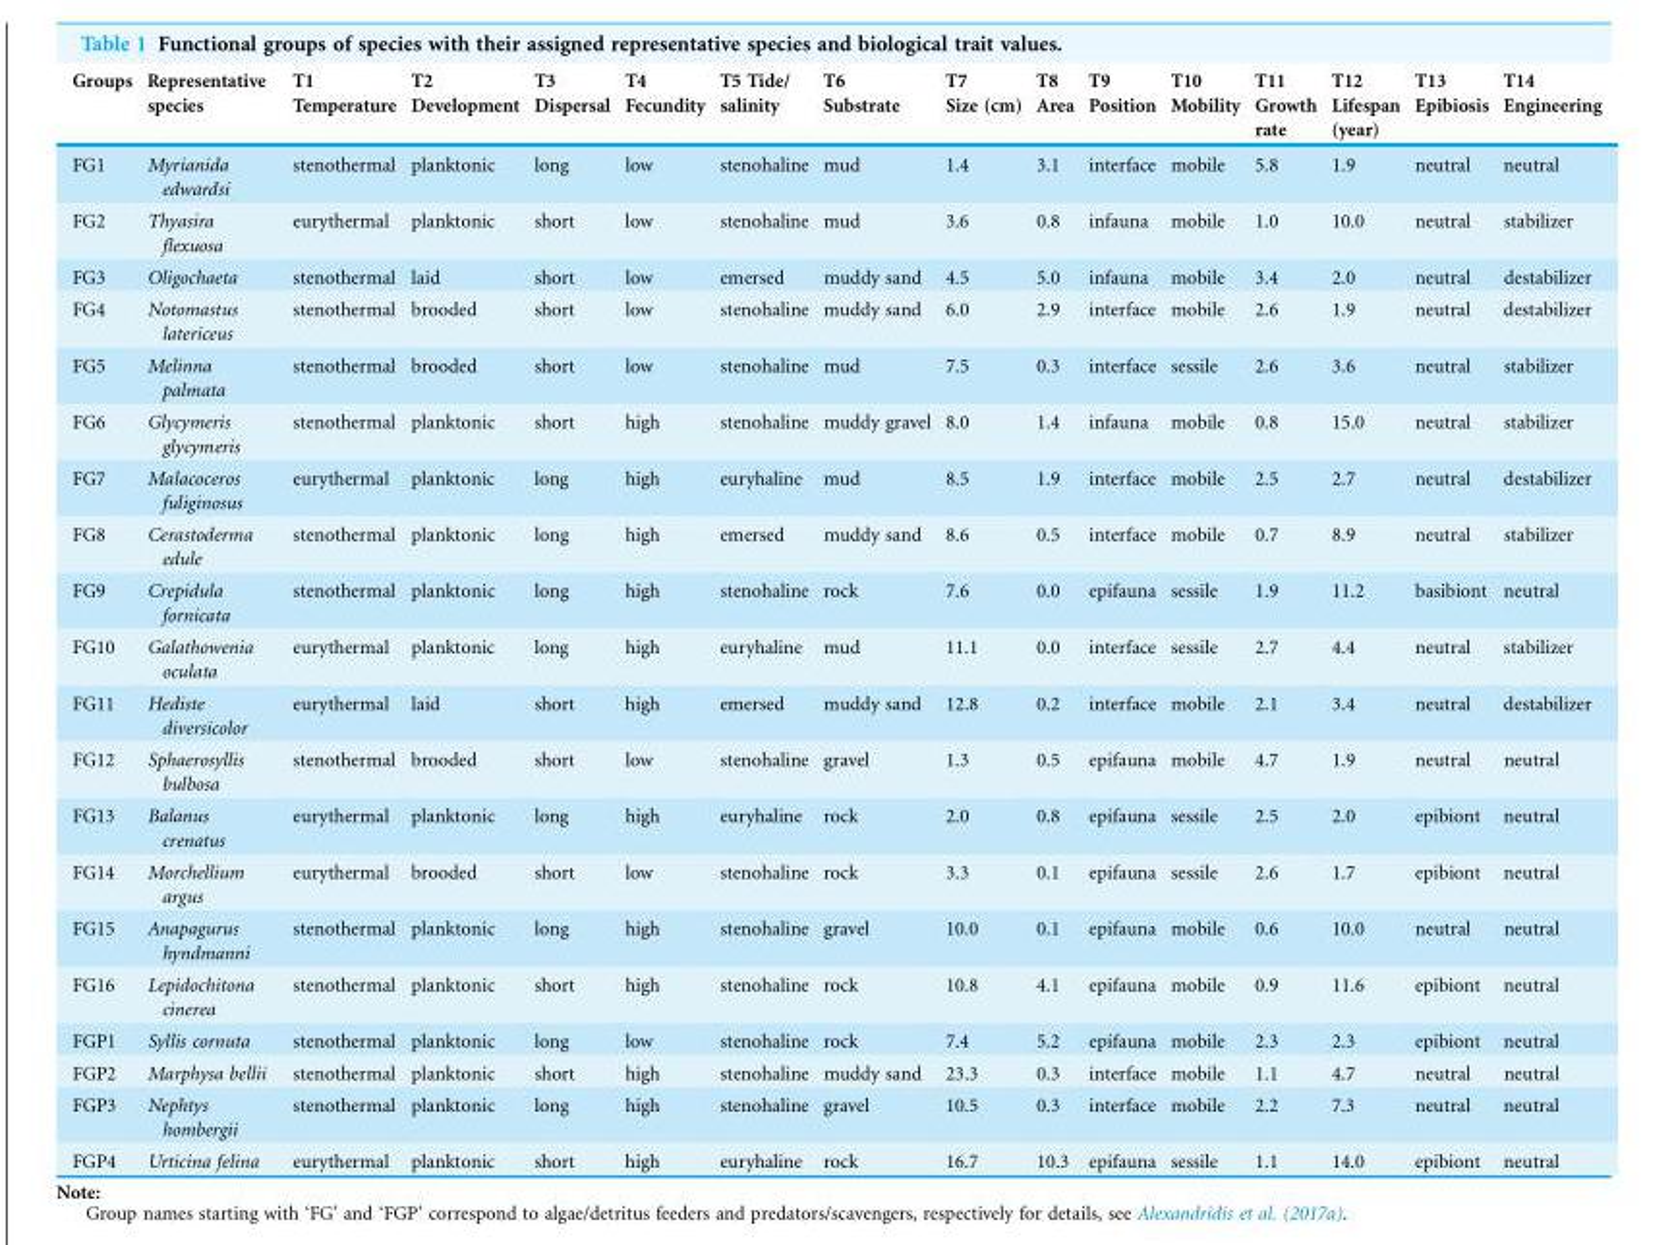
<table><thead><tr><td>Groups</td><td>Representative species</td><td>T1 Temperature</td><td>T2 Development</td><td>T3 Dispersal</td><td>T4 Fecundity</td><td>T5 Tide/ salinity</td><td>T6 Substrate</td><td>T7 Size (cm)</td><td>T8 Area</td><td>T9 Position</td><td>T10 Mobility</td><td>T11 Growth rate</td><td>T12 Lifespan (year)</td><td>T13 Epibiosis</td><td>T14 Engineering</td></tr></thead><tbody><tr><td>FG1</td><td>Myrianida edwardsi</td><td>stenothermal</td><td>planktonic</td><td>long</td><td>low</td><td>stenohaline</td><td>mud</td><td>1.4</td><td>3.1</td><td>interface</td><td>mobile</td><td>5.8</td><td>1.9</td><td>neutral</td><td>neutral</td></tr><tr><td>FG2</td><td>Thyasira flexuosa</td><td>eurythermal</td><td>planktonic</td><td>short</td><td>low</td><td>stenohaline</td><td>mud</td><td>3.6</td><td>0.8</td><td>infauna</td><td>mobile</td><td>1.0</td><td>10.0</td><td>neutral</td><td>stabilizer</td></tr><tr><td>FG3</td><td>Oligochaeta</td><td>stenothermal</td><td>laid</td><td>short</td><td>low</td><td>emersed</td><td>muddy sand</td><td>4.5</td><td>5.0</td><td>infauna</td><td>mobile</td><td>3.4</td><td>2.0</td><td>neutral</td><td>destabilizer</td></tr><tr><td>FG4</td><td>Notomastus latericeus</td><td>stenothermal</td><td>brooded</td><td>short</td><td>low</td><td>stenohaline</td><td>muddy sand</td><td>6.0</td><td>2.9</td><td>interface</td><td>mobile</td><td>2.6</td><td>1.9</td><td>neutral</td><td>destabilizer</td></tr><tr><td>FG5</td><td>Melinna palmata</td><td>stenothermal</td><td>brooded</td><td>short</td><td>low</td><td>stenohaline</td><td>mud</td><td>7.5</td><td>0.3</td><td>interface</td><td>sessile</td><td>2.6</td><td>3.6</td><td>neutral</td><td>stabilizer</td></tr><tr><td>FG6</td><td>Glycymeris glycymeris</td><td>stenothermal</td><td>planktonic</td><td>short</td><td>high</td><td>stenohaline</td><td>muddy gravel</td><td>8.0</td><td>1.4</td><td>infauna</td><td>mobile</td><td>0.8</td><td>15.0</td><td>neutral</td><td>stabilizer</td></tr><tr><td>FG7</td><td>Malacoceros fuliginosus</td><td>eurythermal</td><td>planktonic</td><td>long</td><td>high</td><td>euryhaline</td><td>mud</td><td>8.5</td><td>1.9</td><td>interface</td><td>mobile</td><td>2.5</td><td>2.7</td><td>neutral</td><td>destabilizer</td></tr><tr><td>FG8</td><td>Cerastoderma edule</td><td>stenothermal</td><td>planktonic</td><td>long</td><td>high</td><td>emersed</td><td>muddy sand</td><td>8.6</td><td>0.5</td><td>interface</td><td>mobile</td><td>0.7</td><td>8.9</td><td>neutral</td><td>stabilizer</td></tr><tr><td>FG9</td><td>Crepidula fornicata</td><td>stenothermal</td><td>planktonic</td><td>long</td><td>high</td><td>stenohaline</td><td>rock</td><td>7.6</td><td>0.0</td><td>epifauna</td><td>sessile</td><td>1.9</td><td>11.2</td><td>basibiont</td><td>neutral</td></tr><tr><td>FG10</td><td>Galathowenia oculata</td><td>eurythermal</td><td>planktonic</td><td>long</td><td>high</td><td>euryhaline</td><td>mud</td><td>11.1</td><td>0.0</td><td>interface</td><td>sessile</td><td>2.7</td><td>4.4</td><td>neutral</td><td>stabilizer</td></tr><tr><td>FG11</td><td>Hediste diversicolor</td><td>eurythermal</td><td>laid</td><td>short</td><td>high</td><td>emersed</td><td>muddy sand</td><td>12.8</td><td>0.2</td><td>interface</td><td>mobile</td><td>2.1</td><td>3.4</td><td>neutral</td><td>destabilizer</td></tr><tr><td>FG12</td><td>Sphaerosyllis bulbosa</td><td>stenothermal</td><td>brooded</td><td>short</td><td>low</td><td>stenohaline</td><td>gravel</td><td>1.3</td><td>0.5</td><td>epifauna</td><td>mobile</td><td>4.7</td><td>1.9</td><td>neutral</td><td>neutral</td></tr><tr><td>FG13</td><td>Balanus crenatus</td><td>eurythermal</td><td>planktonic</td><td>long</td><td>high</td><td>euryhaline</td><td>rock</td><td>2.0</td><td>0.8</td><td>epifauna</td><td>sessile</td><td>2.5</td><td>2.0</td><td>epibiont</td><td>neutral</td></tr><tr><td>FG14</td><td>Morchellium argus</td><td>eurythermal</td><td>brooded</td><td>short</td><td>low</td><td>stenohaline</td><td>rock</td><td>3.3</td><td>0.1</td><td>epifauna</td><td>sessile</td><td>2.6</td><td>1.7</td><td>epibiont</td><td>neutral</td></tr><tr><td>FG15</td><td>Anapagurus hyndmanni</td><td>stenothermal</td><td>planktonic</td><td>long</td><td>high</td><td>stenohaline</td><td>gravel</td><td>10.0</td><td>0.1</td><td>epifauna</td><td>mobile</td><td>0.6</td><td>10.0</td><td>neutral</td><td>neutral</td></tr><tr><td>FG16</td><td>Lepidochitona cinerea</td><td>stenothermal</td><td>planktonic</td><td>short</td><td>high</td><td>stenohaline</td><td>rock</td><td>10.8</td><td>4.1</td><td>epifauna</td><td>mobile</td><td>0.9</td><td>11.6</td><td>epibiont</td><td>neutral</td></tr><tr><td>FGP1</td><td>Syllis cornuta</td><td>stenothermal</td><td>planktonic</td><td>long</td><td>low</td><td>stenohaline</td><td>rock</td><td>7.4</td><td>5.2</td><td>epifauna</td><td>mobile</td><td>2.3</td><td>2.3</td><td>epibiont</td><td>neutral</td></tr><tr><td>FGP2</td><td>Marphysa bellii</td><td>stenothermal</td><td>planktonic</td><td>short</td><td>high</td><td>stenohaline</td><td>muddy sand</td><td>23.3</td><td>0.3</td><td>interface</td><td>mobile</td><td>1.1</td><td>4.7</td><td>neutral</td><td>neutral</td></tr><tr><td>FGP3</td><td>Nephtys hombergii</td><td>stenothermal</td><td>planktonic</td><td>long</td><td>high</td><td>stenohaline</td><td>gravel</td><td>10.5</td><td>0.3</td><td>interface</td><td>mobile</td><td>2.2</td><td>7.3</td><td>neutral</td><td>neutral</td></tr><tr><td>FGP4</td><td>Urticina felina</td><td>eurythermal</td><td>planktonic</td><td>short</td><td>high</td><td>euryhaline</td><td>rock</td><td>16.7</td><td>10.3</td><td>epifauna</td><td>sessile</td><td>1.1</td><td>14.0</td><td>epibiont</td><td>neutral</td></tr></tbody></table>